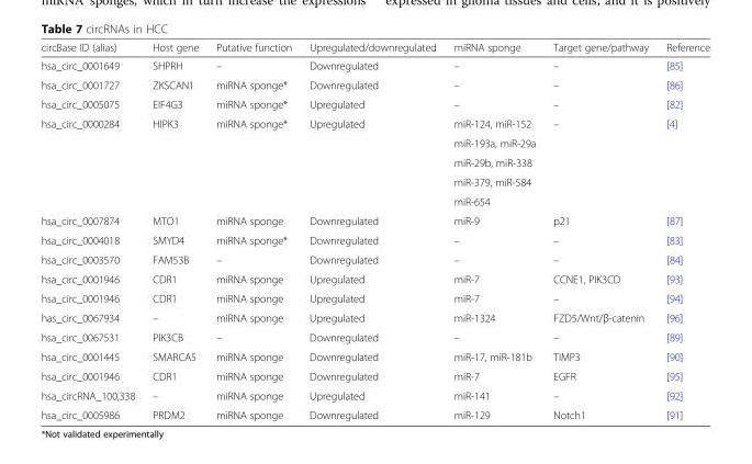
<table><thead><tr><td>circBase ID (alias)</td><td>Host gene</td><td>Putative function</td><td>Upregulated/downregulated</td><td>miRNA sponge</td><td>Target gene/pathway</td><td>Reference</td></tr></thead><tbody><tr><td>hsa_circ_0001649</td><td>SHPRH</td><td>–</td><td>Downregulated</td><td>–</td><td>–</td><td>[85]</td></tr><tr><td>hsa_circ_0001727</td><td>ZKSCAN1</td><td>miRNA sponge*</td><td>Downregulated</td><td>–</td><td>–</td><td>[86]</td></tr><tr><td>hsa_circ_0005075</td><td>EIF4G3</td><td>miRNA sponge*</td><td>Upregulated</td><td>–</td><td>–</td><td>[82]</td></tr><tr><td rowspan="5">hsa_circ_0000284</td><td rowspan="5">HIPK3</td><td rowspan="5">miRNA sponge*</td><td rowspan="5">Upregulated</td><td>miR-124, miR-152</td><td rowspan="5">–</td><td rowspan="5">[4]</td></tr><tr><td>miR-193a, miR-29a</td></tr><tr><td>miR-29b, miR-338</td></tr><tr><td>miR-379, miR-584</td></tr><tr><td>miR-654</td></tr><tr><td>hsa_circ_0007874</td><td>MTO1</td><td>miRNA sponge</td><td>Downregulated</td><td>miR-9</td><td>p21</td><td>[87]</td></tr><tr><td>hsa_circ_0004018</td><td>SMYD4</td><td>miRNA sponge*</td><td>Downregulated</td><td>–</td><td>–</td><td>[83]</td></tr><tr><td>hsa_circ_0003570</td><td>FAM53B</td><td>–</td><td>Downregulated</td><td>–</td><td>–</td><td>[84]</td></tr><tr><td>hsa_circ_0001946</td><td>CDR1</td><td>miRNA sponge</td><td>Upregulated</td><td>miR-7</td><td>CCNE1, PIK3CD</td><td>[93]</td></tr><tr><td>hsa_circ_0001946</td><td>CDR1</td><td>miRNA sponge</td><td>Upregulated</td><td>miR-7</td><td>–</td><td>[94]</td></tr><tr><td>has_circ_0067934</td><td>–</td><td>miRNA sponge</td><td>Upregulated</td><td>miR-1324</td><td>FZD5/Wnt/β-catenin</td><td>[96]</td></tr><tr><td>hsa_circ_0067531</td><td>PIK3CB</td><td>–</td><td>Downregulated</td><td>–</td><td>–</td><td>[89]</td></tr><tr><td>hsa_circ_0001445</td><td>SMARCA5</td><td>miRNA sponge</td><td>Downregulated</td><td>miR-17, miR-181b</td><td>TIMP3</td><td>[90]</td></tr><tr><td>hsa_circ_0001946</td><td>CDR1</td><td>miRNA sponge</td><td>Downregulated</td><td>miR-7</td><td>EGFR</td><td>[95]</td></tr><tr><td>hsa_circRNA_100,338</td><td>–</td><td>miRNA sponge</td><td>Upregulated</td><td>miR-141</td><td>–</td><td>[92]</td></tr><tr><td>hsa_circ_0005986</td><td>PRDM2</td><td>miRNA sponge</td><td>Downregulated</td><td>miR-129</td><td>Notch1</td><td>[91]</td></tr></tbody></table>